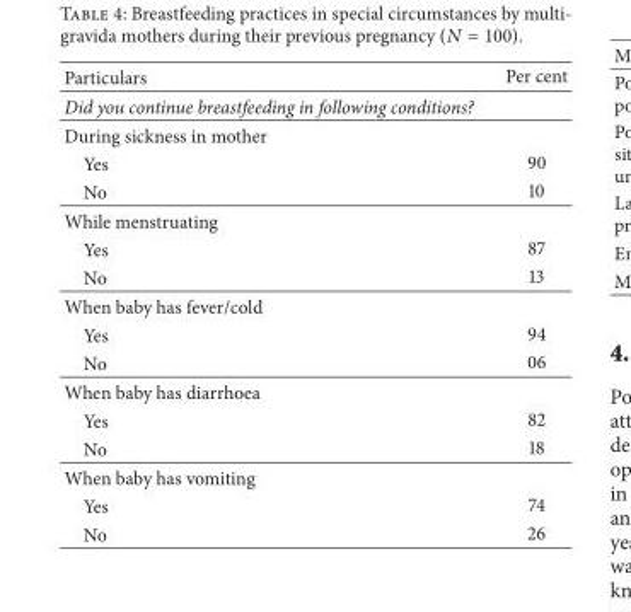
<table><thead><tr><td>Particulars</td><td>Per cent</td></tr></thead><tbody><tr><td colspan="2">Did you continue breastfeeding in following conditions?</td></tr><tr><td colspan="2">During sickness in mother</td></tr><tr><td>Yes</td><td>90</td></tr><tr><td>No</td><td>10</td></tr><tr><td colspan="2">While menstruating</td></tr><tr><td>Yes</td><td>87</td></tr><tr><td>No</td><td>13</td></tr><tr><td colspan="2">When baby has fever/cold</td></tr><tr><td>Yes</td><td>94</td></tr><tr><td>No</td><td>06</td></tr><tr><td colspan="2">When baby has diarrhoea</td></tr><tr><td>Yes</td><td>82</td></tr><tr><td>No</td><td>18</td></tr><tr><td colspan="2">When baby has vomiting</td></tr><tr><td>Yes</td><td>74</td></tr><tr><td>No</td><td>26</td></tr></tbody></table>